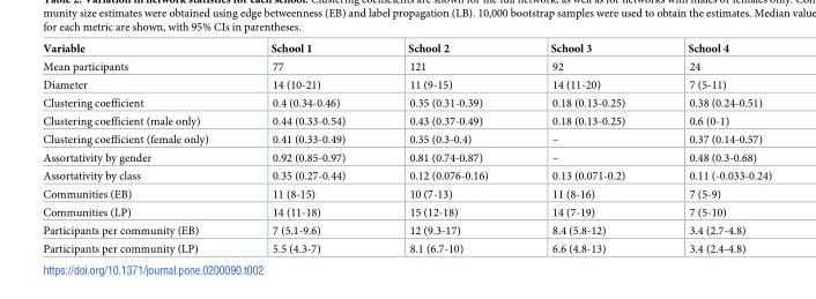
<table><thead><tr><td>Variable</td><td>School 1</td><td>School 2</td><td>School 3</td><td>School 4</td></tr></thead><tbody><tr><td>Mean participants</td><td>77</td><td>121</td><td>92</td><td>24</td></tr><tr><td>Diameter</td><td>14 (10-21)</td><td>11 (9-15)</td><td>14 (11-20)</td><td>7 (5-11)</td></tr><tr><td>Clustering coefficient</td><td>0.4 (0.34-0.46)</td><td>0.35 (0.31-0.39)</td><td>0.18 (0.13-0.25)</td><td>0.38 (0.24-0.51)</td></tr><tr><td>Clustering coefficient (male only)</td><td>0.44 (0.33-0.54)</td><td>0.43 (0.37-0.49)</td><td>0.18 (0.13-0.25)</td><td>0.6 (0-1)</td></tr><tr><td>Clustering coefficient (female only)</td><td>0.41 (0.33-0.49)</td><td>0.35 (0.3-0.4)</td><td>–</td><td>0.37 (0.14-0.57)</td></tr><tr><td>Assortativity by gender</td><td>0.92 (0.85-0.97)</td><td>0.81 (0.74-0.87)</td><td>–</td><td>0.48 (0.3-0.68)</td></tr><tr><td>Assortativity by class</td><td>0.35 (0.27-0.44)</td><td>0.12 (0.076-0.16)</td><td>0.13 (0.071-0.2)</td><td>0.11 (-0.033-0.24)</td></tr><tr><td>Communities (EB)</td><td>11 (8-15)</td><td>10 (7-13)</td><td>11 (8-16)</td><td>7 (5-9)</td></tr><tr><td>Communities (LP)</td><td>14 (11-18)</td><td>15 (12-18)</td><td>14 (7-19)</td><td>7 (5-10)</td></tr><tr><td>Participants per community (EB)</td><td>7 (5.1-9.6)</td><td>12 (9.3-17)</td><td>8.4 (5.8-12)</td><td>3.4 (2.7-4.8)</td></tr><tr><td>Participants per community (LP)</td><td>5.5 (4.3-7)</td><td>8.1 (6.7-10)</td><td>6.6 (4.8-13)</td><td>3.4 (2.4-4.8)</td></tr></tbody></table>